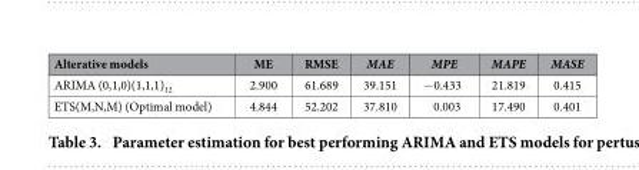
<table><thead><tr><td>Alterative models</td><td>ME</td><td>RMSE</td><td>MAE</td><td>MPE</td><td>MAPE</td><td>MASE</td></tr></thead><tbody><tr><td>ARIMA (0,1,0)(1,1,1)<sub>12</sub></td><td>2.900</td><td>61.689</td><td>39.151</td><td>− 0.433</td><td>21.819</td><td>0.415</td></tr><tr><td>ETS(M,N,M) (Optimal model)</td><td>4.844</td><td>52.202</td><td>37.810</td><td>0.003</td><td>17.490</td><td>0.401</td></tr></tbody></table>